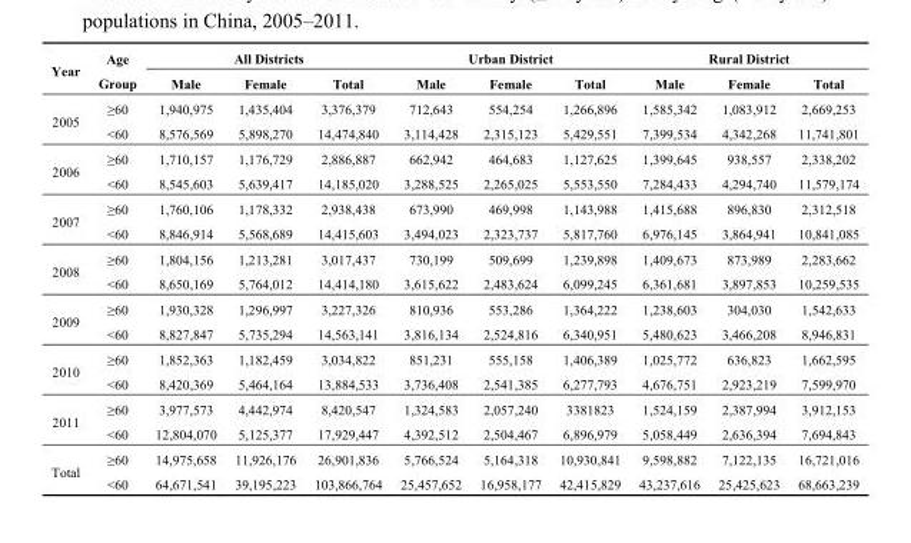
<table><thead><tr><td rowspan="2">Year</td><td rowspan="2">Age Group</td><td colspan="3">All Districts</td><td colspan="3">Urban District</td><td colspan="3">Rural District</td></tr><tr><td>Male</td><td>Female</td><td>Total</td><td>Male</td><td>Female</td><td>Total</td><td>Male</td><td>Female</td><td>Total</td></tr></thead><tbody><tr><td rowspan="2">2005</td><td>≥60</td><td>1,940,975</td><td>1,435,404</td><td>3,376,379</td><td>712,643</td><td>554,254</td><td>1,266,896</td><td>1,585,342</td><td>1,083,912</td><td>2,669,253</td></tr><tr><td>&lt;60</td><td>8,576,569</td><td>5,898,270</td><td>14,474,840</td><td>3,114,428</td><td>2,315,123</td><td>5,429,551</td><td>7,399,534</td><td>4,342,268</td><td>11,741,801</td></tr><tr><td rowspan="2">2006</td><td>≥60</td><td>1,710,157</td><td>1,176,729</td><td>2,886,887</td><td>662,942</td><td>464,683</td><td>1,127,625</td><td>1,399,645</td><td>938,557</td><td>2,338,202</td></tr><tr><td>&lt;60</td><td>8,545,603</td><td>5,639,417</td><td>14,185,020</td><td>3,288,525</td><td>2,265,025</td><td>5,553,550</td><td>7,284,433</td><td>4,294,740</td><td>11,579,174</td></tr><tr><td rowspan="2">2007</td><td>≥60</td><td>1,760,106</td><td>1,178,332</td><td>2,938,438</td><td>673,990</td><td>469,998</td><td>1,143,988</td><td>1,415,688</td><td>896,830</td><td>2,312,518</td></tr><tr><td>&lt;60</td><td>8,846,914</td><td>5,568,689</td><td>14,415,603</td><td>3,494,023</td><td>2,323,737</td><td>5,817,760</td><td>6,976,145</td><td>3,864,941</td><td>10,841,085</td></tr><tr><td rowspan="2">2008</td><td>≥60</td><td>1,804,156</td><td>1,213,281</td><td>3,017,437</td><td>730,199</td><td>509,699</td><td>1,239,898</td><td>1,409,673</td><td>873,989</td><td>2,283,662</td></tr><tr><td>&lt;60</td><td>8,650,169</td><td>5,764,012</td><td>14,414,180</td><td>3,615,622</td><td>2,483,624</td><td>6,099,245</td><td>6,361,681</td><td>3,897,853</td><td>10,259,535</td></tr><tr><td rowspan="2">2009</td><td>≥60</td><td>1,930,328</td><td>1,296,997</td><td>3,227,326</td><td>810,936</td><td>553,286</td><td>1,364,222</td><td>1,238,603</td><td>304,030</td><td>1,542,633</td></tr><tr><td>&lt;60</td><td>8,827,847</td><td>5,735,294</td><td>14,563,141</td><td>3,816,134</td><td>2,524,816</td><td>6,340,951</td><td>5,480,623</td><td>3,466,208</td><td>8,946,831</td></tr><tr><td rowspan="2">2010</td><td>≥60</td><td>1,852,363</td><td>1,182,459</td><td>3,034,822</td><td>851,231</td><td>555,158</td><td>1,406,389</td><td>1,025,772</td><td>636,823</td><td>1,662,595</td></tr><tr><td>&lt;60</td><td>8,420,369</td><td>5,464,164</td><td>13,884,533</td><td>3,736,408</td><td>2,541,385</td><td>6,277,793</td><td>4,676,751</td><td>2,923,219</td><td>7,599,970</td></tr><tr><td rowspan="2">2011</td><td>≥60</td><td>3,977,573</td><td>4,442,974</td><td>8,420,547</td><td>1,324,583</td><td>2,057,240</td><td>3381823</td><td>1,524,159</td><td>2,387,994</td><td>3,912,153</td></tr><tr><td>&lt;60</td><td>12,804,070</td><td>5,125,377</td><td>17,929,447</td><td>4,392,512</td><td>2,504,467</td><td>6,896,979</td><td>5,058,449</td><td>2,636,394</td><td>7,694,843</td></tr><tr><td rowspan="2">Total</td><td>≥60</td><td>14,975,658</td><td>11,926,176</td><td>26,901,836</td><td>5,766,524</td><td>5,164,318</td><td>10,930,841</td><td>9,598,882</td><td>7,122,135</td><td>16,721,016</td></tr><tr><td>&lt;60</td><td>64,671,541</td><td>39,195,223</td><td>103,866,764</td><td>25,457,652</td><td>16,958,177</td><td>42,415,829</td><td>43,237,616</td><td>25,425,623</td><td>68,663,239</td></tr></tbody></table>